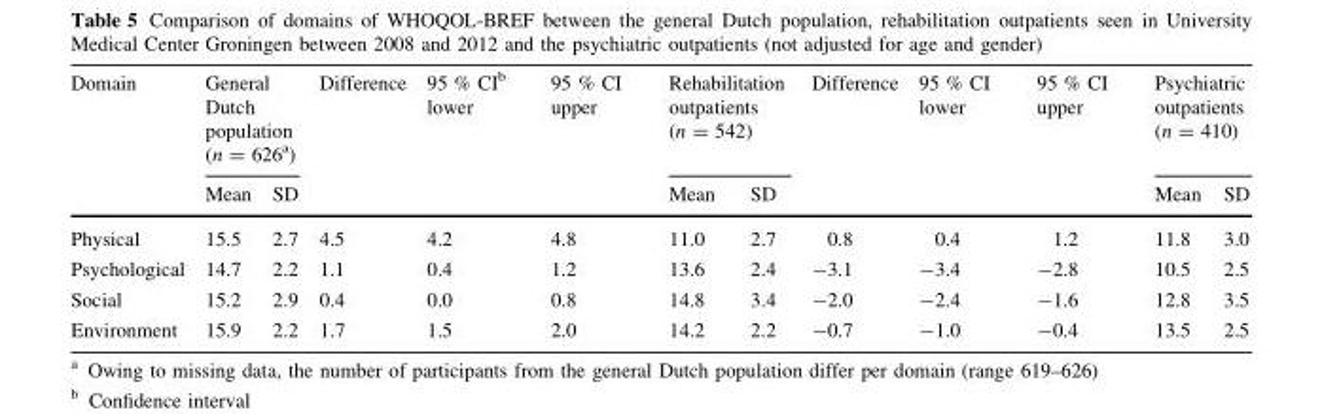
<table><thead><tr><td rowspan="2">Domain</td><td colspan="2">General Dutch population (n = 626<sup>a</sup>)</td><td rowspan="2">Difference</td><td rowspan="2">95 % CI<sup>b</sup> lower</td><td rowspan="2">95 % CI upper</td><td colspan="2">Rehabilitation outpatients (n = 542)</td><td rowspan="2">Difference</td><td rowspan="2">95 % CI lower</td><td rowspan="2">95 % CI upper</td><td colspan="2">Psychiatric outpatients (n = 410)</td></tr><tr><td>Mean</td><td>SD</td><td>Mean</td><td>SD</td><td>Mean</td><td>SD</td></tr></thead><tbody><tr><td>Physical</td><td>15.5</td><td>2.7</td><td>4.5</td><td>4.2</td><td>4.8</td><td>11.0</td><td>2.7</td><td>0.8</td><td>0.4</td><td>1.2</td><td>11.8</td><td>3.0</td></tr><tr><td>Psychological</td><td>14.7</td><td>2.2</td><td>1.1</td><td>0.4</td><td>1.2</td><td>13.6</td><td>2.4</td><td>-3.1</td><td>-3.4</td><td>-2.8</td><td>10.5</td><td>2.5</td></tr><tr><td>Social</td><td>15.2</td><td>2.9</td><td>0.4</td><td>0.0</td><td>0.8</td><td>14.8</td><td>3.4</td><td>-2.0</td><td>-2.4</td><td>-1.6</td><td>12.8</td><td>3.5</td></tr><tr><td>Environment</td><td>15.9</td><td>2.2</td><td>1.7</td><td>1.5</td><td>2.0</td><td>14.2</td><td>2.2</td><td>-0.7</td><td>-1.0</td><td>-0.4</td><td>13.5</td><td>2.5</td></tr></tbody></table>